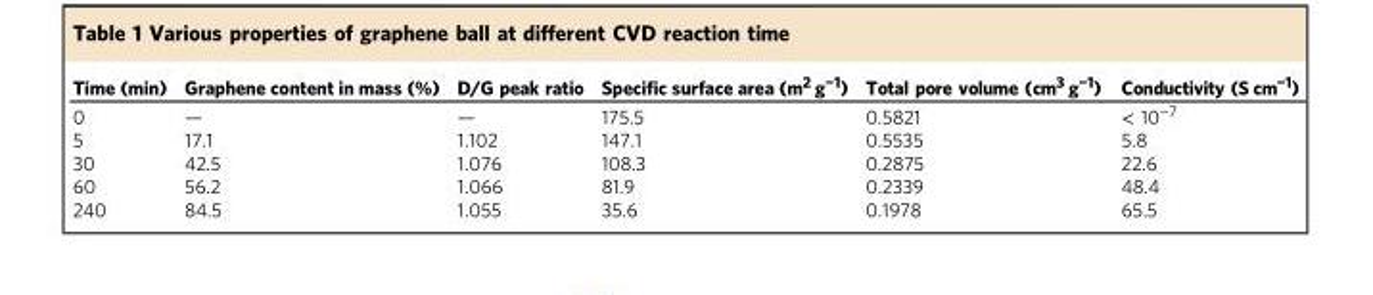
<table><thead><tr><td>Time (min)</td><td>Graphene content in mass (%)</td><td>D/G peak ratio</td><td>Specific surface area (m<sup>2</sup> g<sup>−1</sup>)</td><td>Total pore volume (cm<sup>3</sup> g<sup>−1</sup>)</td><td>Conductivity (S cm<sup>−1</sup>)</td></tr></thead><tbody><tr><td>0</td><td>—</td><td>—</td><td>175.5</td><td>0.5821</td><td>&lt; 10<sup>−7</sup></td></tr><tr><td>5</td><td>17.1</td><td>1.102</td><td>147.1</td><td>0.5535</td><td>5.8</td></tr><tr><td>30</td><td>42.5</td><td>1.076</td><td>108.3</td><td>0.2875</td><td>22.6</td></tr><tr><td>60</td><td>56.2</td><td>1.066</td><td>81.9</td><td>0.2339</td><td>48.4</td></tr><tr><td>240</td><td>84.5</td><td>1.055</td><td>35.6</td><td>0.1978</td><td>65.5</td></tr></tbody></table>